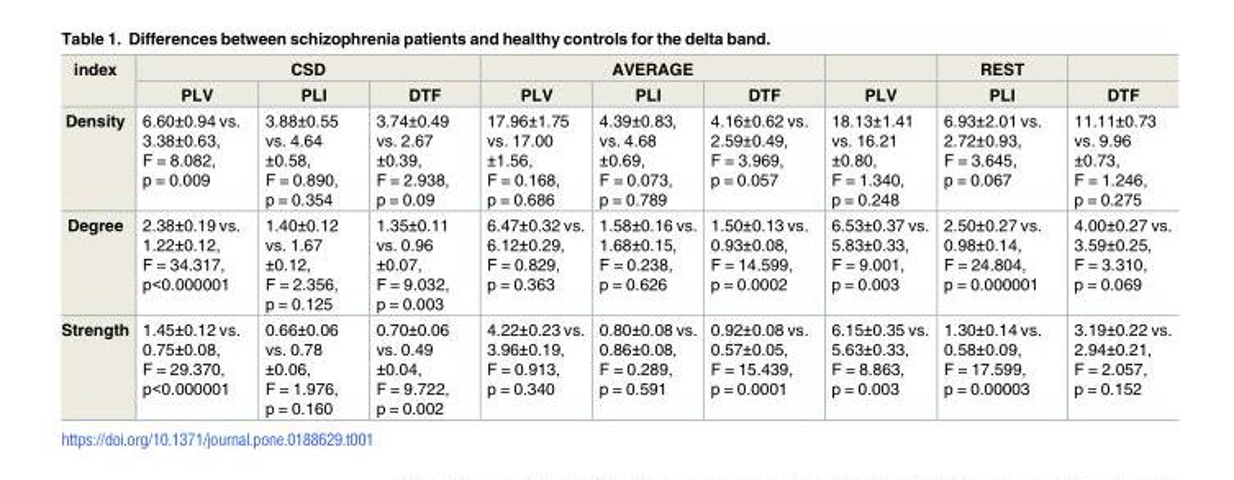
<table><thead><tr><td rowspan="2">index</td><td colspan="3">CSD</td><td colspan="3">AVERAGE</td><td rowspan="2">PLV</td><td rowspan="2">REST PLI</td><td rowspan="2">DTF</td></tr><tr><td>PLV</td><td>PLI</td><td>DTF</td><td>PLV</td><td>PLI</td><td>DTF</td></tr></thead><tbody><tr><td>Density</td><td>6.60±0.94 vs. 3.38±0.63, F = 8.082, p = 0.009</td><td>3.88±0.55 vs. 4.64 ±0.58, F = 0.890, p = 0.354</td><td>3.74±0.49 vs. 2.67 ±0.39, F = 2.938, p = 0.09</td><td>17.96±1.75 vs. 17.00 ±1.56, F = 0.168, p = 0.686</td><td>4.39±0.83, vs. 4.68 ±0.69, F = 0.073, p = 0.789</td><td>4.16±0.62 vs. 2.59±0.49, F = 3.969, p = 0.057</td><td>18.13±1.41 vs. 16.21 ±0.80, F = 1.340, p = 0.248</td><td>6.93±2.01 vs. 2.72±0.93, F = 3.645, p = 0.067</td><td>11.11±0.73 vs. 9.96 ±0.73, F = 1.246, p = 0.275</td></tr><tr><td>Degree</td><td>2.38±0.19 vs. 1.22±0.12, F = 34.317, p&lt;0.000001</td><td>1.40±0.12 vs. 1.67 ±0.12, F = 2.356, p = 0.125</td><td>1.35±0.11 vs. 0.96 ±0.07, F = 9.032, p = 0.003</td><td>6.47±0.32 vs. 6.12±0.29, F = 0.829, p = 0.363</td><td>1.58±0.16 vs. 1.68±0.15, F = 0.238, p = 0.626</td><td>1.50±0.13 vs. 0.93±0.08, F = 14.599, p = 0.0002</td><td>6.53±0.37 vs. 5.83±0.33, F = 9.001, p = 0.003</td><td>2.50±0.27 vs. 0.98±0.14, F = 24.804, p = 0.000001</td><td>4.00±0.27 vs. 3.59±0.25, F = 3.310, p = 0.069</td></tr><tr><td>Strength</td><td>1.45±0.12 vs. 0.75±0.08, F = 29.370, p&lt;0.000001</td><td>0.66±0.06 vs. 0.78 ±0.06, F = 1.976, p = 0.160</td><td>0.70±0.06 vs. 0.49 ±0.04, F = 9.722, p = 0.002</td><td>4.22±0.23 vs. 3.96±0.19, F = 0.913, p = 0.340</td><td>0.80±0.08 vs. 0.86±0.08, F = 0.289, p = 0.591</td><td>0.92±0.08 vs. 0.57±0.05, F = 15.439, p = 0.0001</td><td>6.15±0.35 vs. 5.63±0.33, F = 8.863, p = 0.003</td><td>1.30±0.14 vs. 0.58±0.09, F = 17.599, p = 0.00003</td><td>3.19±0.22 vs. 2.94±0.21, F = 2.057, p = 0.152</td></tr></tbody></table>